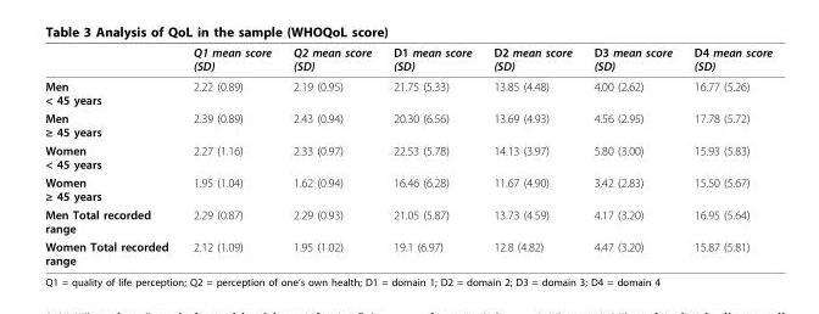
<table><thead><tr><td></td><td>Q1 mean score (SD)</td><td>Q2 mean score (SD)</td><td>D1 mean score (SD)</td><td>D2 mean score (SD)</td><td>D3 mean score (SD)</td><td>D4 mean score (SD)</td></tr></thead><tbody><tr><td>Men &lt; 45 years</td><td>2.22 (0.89)</td><td>2.19 (0.95)</td><td>21.75 (5.33)</td><td>13.85 (4.48)</td><td>4.00 (2.62)</td><td>16.77 (5.26)</td></tr><tr><td>Men ≥ 45 years</td><td>2.39 (0.89)</td><td>2.43 (0.94)</td><td>20.30 (6.56)</td><td>13.69 (4.93)</td><td>4.56 (2.95)</td><td>17.78 (5.72)</td></tr><tr><td>Women &lt; 45 years</td><td>2.27 (1.16)</td><td>2.33 (0.97)</td><td>22.53 (5.78)</td><td>14.13 (3.97)</td><td>5.80 (3.00)</td><td>15.93 (5.83)</td></tr><tr><td>Women ≥ 45 years</td><td>1.95 (1.04)</td><td>1.62 (0.94)</td><td>16.46 (6.28)</td><td>11.67 (4.90)</td><td>3.42 (2.83)</td><td>15.50 (5.67)</td></tr><tr><td>Men Total recorded range</td><td>2.29 (0.87)</td><td>2.29 (0.93)</td><td>21.05 (5.87)</td><td>13.73 (4.59)</td><td>4.17 (3.20)</td><td>16.95 (5.64)</td></tr><tr><td>Women Total recorded range</td><td>2.12 (1.09)</td><td>1.95 (1.02)</td><td>19.1 (6.97)</td><td>12.8 (4.82)</td><td>4.47 (3.20)</td><td>15.87 (5.81)</td></tr></tbody></table>